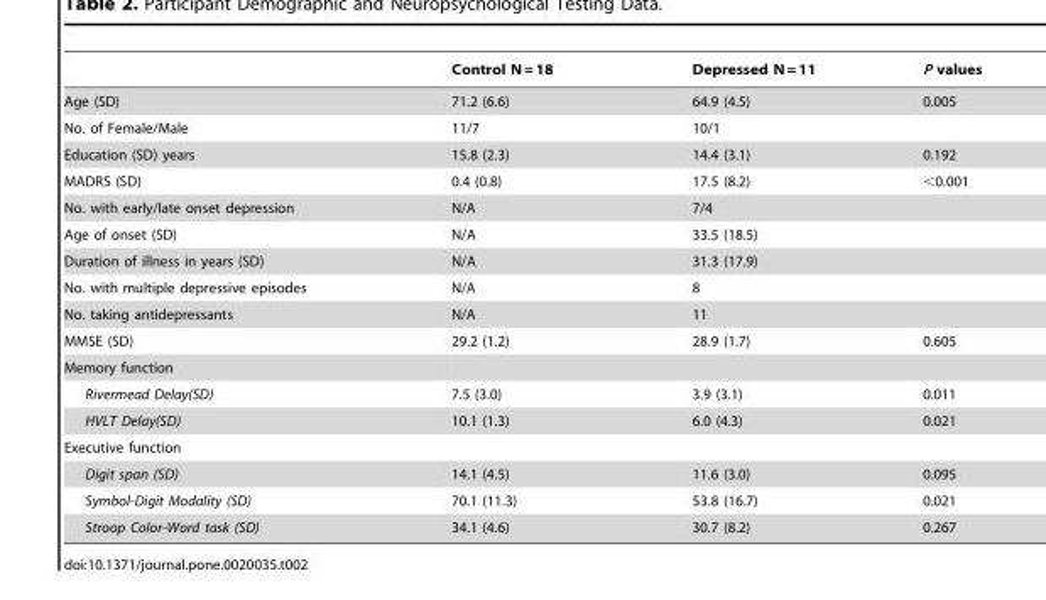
<table><thead><tr><td></td><td>Control N = 18</td><td>Depressed N = 11</td><td>P values</td></tr></thead><tbody><tr><td>Age (SD)</td><td>71.2 (6.6)</td><td>64.9 (4.5)</td><td>0.005</td></tr><tr><td>No. of Female/Male</td><td>11/7</td><td>10/1</td><td></td></tr><tr><td>Education (SD) years</td><td>15.8 (2.3)</td><td>14.4 (3.1)</td><td>0.192</td></tr><tr><td>MADRS (SD)</td><td>0.4 (0.8)</td><td>17.5 (8.2)</td><td>&lt;0.001</td></tr><tr><td>No. with early/late onset depression</td><td>N/A</td><td>7/4</td><td></td></tr><tr><td>Age of onset (SD)</td><td>N/A</td><td>33.5 (18.5)</td><td></td></tr><tr><td>Duration of illness in years (SD)</td><td>N/A</td><td>31.3 (17.9)</td><td></td></tr><tr><td>No. with multiple depressive episodes</td><td>N/A</td><td>8</td><td></td></tr><tr><td>No. taking antidepressants</td><td>N/A</td><td>11</td><td></td></tr><tr><td>MMSE (SD)</td><td>29.2 (1.2)</td><td>28.9 (1.7)</td><td>0.605</td></tr><tr><td colspan="4">Memory function</td></tr><tr><td>Rivermead Delay(SD)</td><td>7.5 (3.0)</td><td>3.9 (3.1)</td><td>0.011</td></tr><tr><td>HVLT Delay(SD)</td><td>10.1 (1.3)</td><td>6.0 (4.3)</td><td>0.021</td></tr><tr><td colspan="4">Executive function</td></tr><tr><td>Digit span (SD)</td><td>14.1 (4.5)</td><td>11.6 (3.0)</td><td>0.095</td></tr><tr><td>Symbol-Digit Modality (SD)</td><td>70.1 (11.3)</td><td>53.8 (16.7)</td><td>0.021</td></tr><tr><td>Stroop Color-Word task (SD)</td><td>34.1 (4.6)</td><td>30.7 (8.2)</td><td>0.267</td></tr></tbody></table>